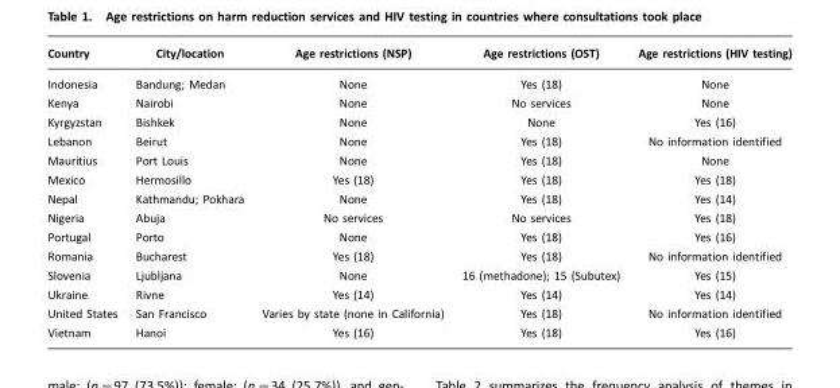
<table><thead><tr><td>Country</td><td>City/location</td><td>Age restrictions (NSP)</td><td>Age restrictions (OST)</td><td>Age restrictions (HIV testing)</td></tr></thead><tbody><tr><td>Indonesia</td><td>Bandung; Medan</td><td>None</td><td>Yes (18)</td><td>None</td></tr><tr><td>Kenya</td><td>Nairobi</td><td>None</td><td>No services</td><td>None</td></tr><tr><td>Kyrgyzstan</td><td>Bishkek</td><td>None</td><td>None</td><td>Yes (16)</td></tr><tr><td>Lebanon</td><td>Beirut</td><td>None</td><td>Yes (18)</td><td>No information identified</td></tr><tr><td>Mauritius</td><td>Port Louis</td><td>None</td><td>Yes (18)</td><td>None</td></tr><tr><td>Mexico</td><td>Hermosillo</td><td>Yes (18)</td><td>Yes (18)</td><td>Yes (18)</td></tr><tr><td>Nepal</td><td>Kathmandu; Pokhara</td><td>None</td><td>Yes (18)</td><td>Yes (14)</td></tr><tr><td>Nigeria</td><td>Abuja</td><td>No services</td><td>No services</td><td>Yes (18)</td></tr><tr><td>Portugal</td><td>Porto</td><td>None</td><td>Yes (18)</td><td>Yes (16)</td></tr><tr><td>Romania</td><td>Bucharest</td><td>Yes (18)</td><td>Yes (18)</td><td>No information identified</td></tr><tr><td>Slovenia</td><td>Ljubljana</td><td>None</td><td>16 (methadone); 15 (Subutex)</td><td>Yes (15)</td></tr><tr><td>Ukraine</td><td>Rivne</td><td>Yes (14)</td><td>Yes (14)</td><td>Yes (14)</td></tr><tr><td>United States</td><td>San Francisco</td><td>Varies by state (none in California)</td><td>Yes (18)</td><td>No information identified</td></tr><tr><td>Vietnam</td><td>Hanoi</td><td>Yes (16)</td><td>Yes (18)</td><td>Yes (16)</td></tr></tbody></table>